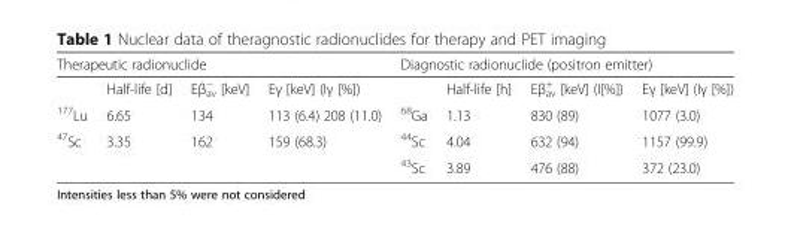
<table><thead><tr><td colspan="4">Therapeutic radionuclide</td><td colspan="4">Diagnostic radionuclide (positron emitter)</td></tr><tr><td></td><td>Half-life [d]</td><td>Eβ<sup>−</sup> <sub>av</sub> [keV]</td><td>Eγ [keV] (Iγ [%])</td><td></td><td>Half-life [h]</td><td>Eβ<sup>+</sup> <sub>av</sub> [keV] (I[%])</td><td>Eγ [keV] (Iγ [%])</td></tr></thead><tbody><tr><td><sup>177</sup>Lu</td><td>6.65</td><td>134</td><td>113 (6.4) 208 (11.0)</td><td><sup>68</sup>Ga</td><td>1.13</td><td>830 (89)</td><td>1077 (3.0)</td></tr><tr><td rowspan="2"><sup>47</sup>Sc</td><td>3.35</td><td>162</td><td>159 (68.3)</td><td><sup>44</sup>Sc</td><td>4.04</td><td>632 (94)</td><td>1157 (99.9)</td></tr><tr><td></td><td></td><td></td><td><sup>43</sup>Sc</td><td>3.89</td><td>476 (88)</td><td>372 (23.0)</td></tr></tbody></table>